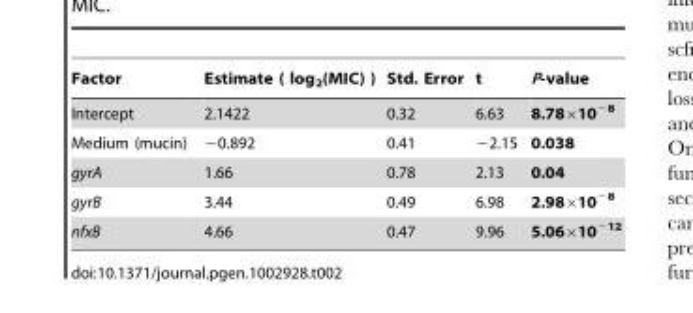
<table><thead><tr><td>Factor</td><td>Estimate ( log<sub>2</sub>(MIC) )</td><td>Std. Error</td><td>t</td><td>P-value</td></tr></thead><tbody><tr><td>Intercept</td><td>2.1422</td><td>0.32</td><td>6.63</td><td>8.78×10<sup>−8</sup></td></tr><tr><td>Medium (mucin)</td><td>−0.892</td><td>0.41</td><td>−2.15</td><td>0.038</td></tr><tr><td>gyrA</td><td>1.66</td><td>0.78</td><td>2.13</td><td>0.04</td></tr><tr><td>gyrB</td><td>3.44</td><td>0.49</td><td>6.98</td><td>2.98×10<sup>−8</sup></td></tr><tr><td>nfxB</td><td>4.66</td><td>0.47</td><td>9.96</td><td>5.06×10<sup>−12</sup></td></tr></tbody></table>